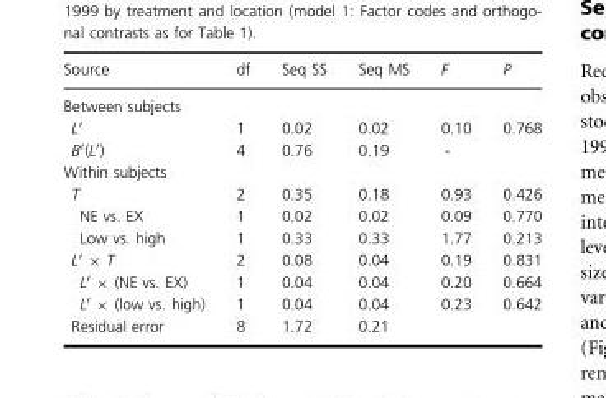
<table><thead><tr><td>Source</td><td>df</td><td>Seq SS</td><td>Seq MS</td><td>F</td><td>P</td></tr></thead><tbody><tr><td colspan="6">Between subjects</td></tr><tr><td>L′</td><td>1</td><td>0.02</td><td>0.02</td><td>0.10</td><td>0.768</td></tr><tr><td>B′(L′)</td><td>4</td><td>0.76</td><td>0.19</td><td>-</td><td></td></tr><tr><td colspan="6">Within subjects</td></tr><tr><td>T</td><td>2</td><td>0.35</td><td>0.18</td><td>0.93</td><td>0.426</td></tr><tr><td>NE vs. EX</td><td>1</td><td>0.02</td><td>0.02</td><td>0.09</td><td>0.770</td></tr><tr><td>Low vs. high</td><td>1</td><td>0.33</td><td>0.33</td><td>1.77</td><td>0.213</td></tr><tr><td>L′ × T</td><td>2</td><td>0.08</td><td>0.04</td><td>0.19</td><td>0.831</td></tr><tr><td>L′ × (NE vs. EX)</td><td>1</td><td>0.04</td><td>0.04</td><td>0.20</td><td>0.664</td></tr><tr><td>L′ × (low vs. high)</td><td>1</td><td>0.04</td><td>0.04</td><td>0.23</td><td>0.642</td></tr><tr><td>Residual error</td><td>8</td><td>1.72</td><td>0.21</td><td></td><td></td></tr></tbody></table>